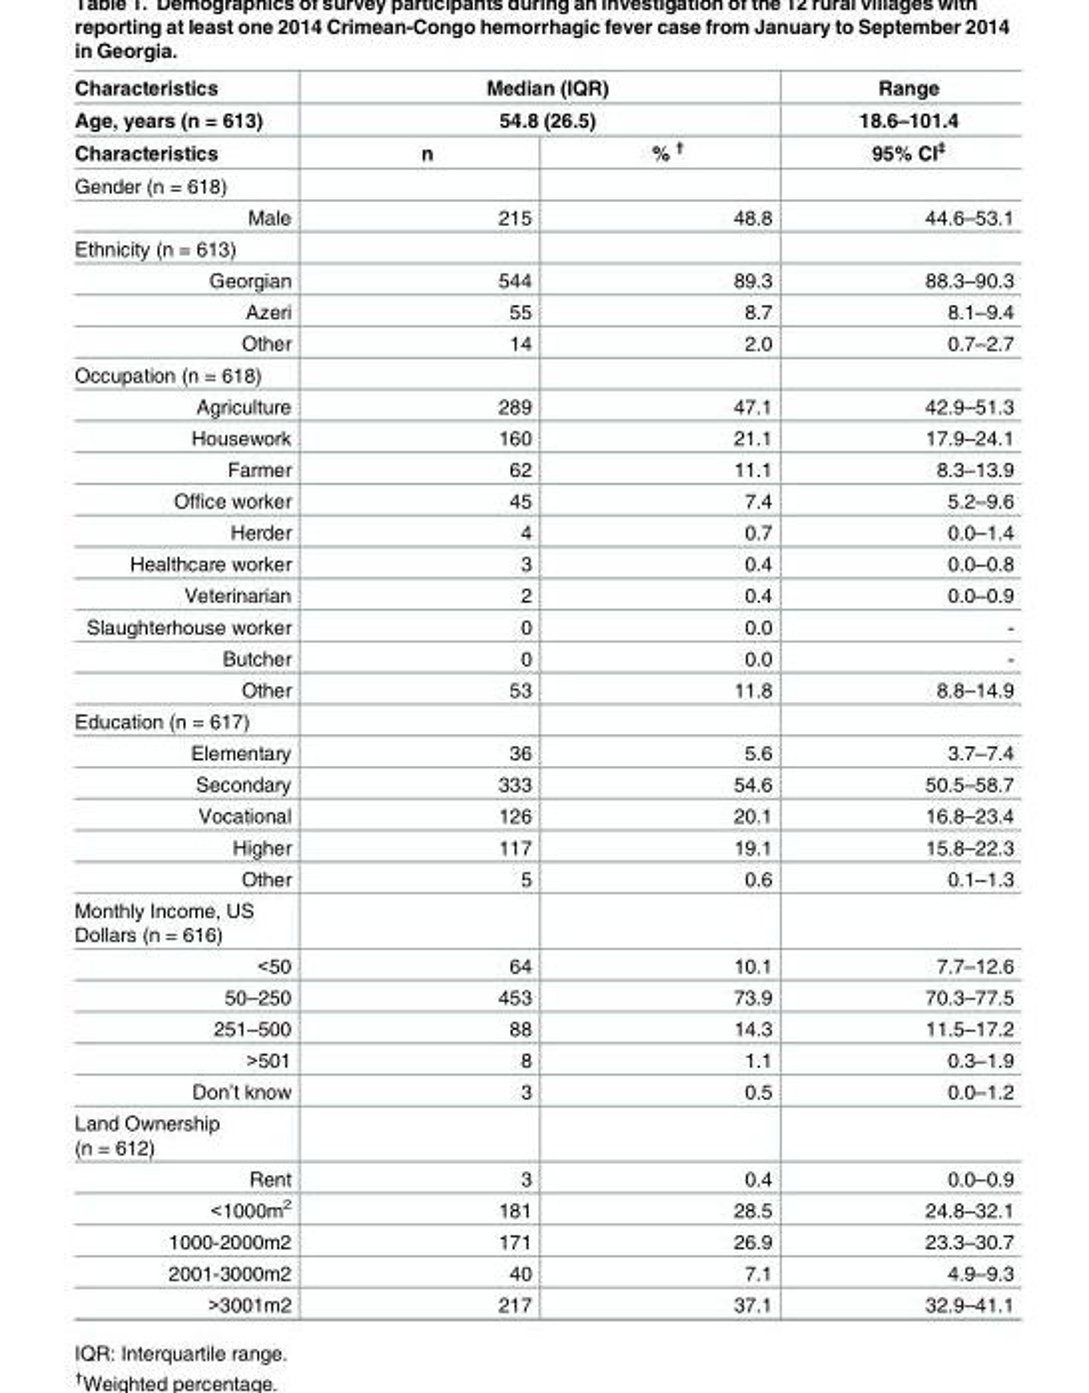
<table><thead><tr><td rowspan="3">Characteristics Age, years (n = 613) Characteristics</td><td rowspan="2" colspan="2">Median (IQR) 54.8 (26.5)</td><td rowspan="3">Range 18.6–101.4 95% CI‡</td></tr><tr></tr><tr><td>n</td><td>% <sup>†</sup></td></tr></thead><tbody><tr><td colspan="4">Gender (n = 618)</td></tr><tr><td>Male</td><td>215</td><td>48.8</td><td>44.6–53.1</td></tr><tr><td colspan="4">Ethnicity (n = 613)</td></tr><tr><td>Georgian</td><td>544</td><td>89.3</td><td>88.3–90.3</td></tr><tr><td>Azeri</td><td>55</td><td>8.7</td><td>8.1–9.4</td></tr><tr><td>Other</td><td>14</td><td>2.0</td><td>0.7–2.7</td></tr><tr><td colspan="4">Occupation (n = 618)</td></tr><tr><td>Agriculture</td><td>289</td><td>47.1</td><td>42.9–51.3</td></tr><tr><td>Housework</td><td>160</td><td>21.1</td><td>17.9–24.1</td></tr><tr><td>Farmer</td><td>62</td><td>11.1</td><td>8.3–13.9</td></tr><tr><td>Office worker</td><td>45</td><td>7.4</td><td>5.2–9.6</td></tr><tr><td>Herder</td><td>4</td><td>0.7</td><td>0.0–1.4</td></tr><tr><td>Healthcare worker</td><td>3</td><td>0.4</td><td>0.0–0.8</td></tr><tr><td>Veterinarian</td><td>2</td><td>0.4</td><td>0.0–0.9</td></tr><tr><td>Slaughterhouse worker</td><td>0</td><td>0.0</td><td>-</td></tr><tr><td>Butcher</td><td>0</td><td>0.0</td><td>-</td></tr><tr><td>Other</td><td>53</td><td>11.8</td><td>8.8–14.9</td></tr><tr><td colspan="4">Education (n = 617)</td></tr><tr><td>Elementary</td><td>36</td><td>5.6</td><td>3.7–7.4</td></tr><tr><td>Secondary</td><td>333</td><td>54.6</td><td>50.5–58.7</td></tr><tr><td>Vocational</td><td>126</td><td>20.1</td><td>16.8–23.4</td></tr><tr><td>Higher</td><td>117</td><td>19.1</td><td>15.8–22.3</td></tr><tr><td>Other</td><td>5</td><td>0.6</td><td>0.1–1.3</td></tr><tr><td colspan="4">Monthly Income, US Dollars (n = 616)</td></tr><tr><td>&lt;50</td><td>64</td><td>10.1</td><td>7.7–12.6</td></tr><tr><td>50–250</td><td>453</td><td>73.9</td><td>70.3–77.5</td></tr><tr><td>251–500</td><td>88</td><td>14.3</td><td>11.5–17.2</td></tr><tr><td>&gt;501</td><td>8</td><td>1.1</td><td>0.3–1.9</td></tr><tr><td>Don’t know</td><td>3</td><td>0.5</td><td>0.0–1.2</td></tr><tr><td colspan="4">Land Ownership (n = 612)</td></tr><tr><td>Rent</td><td>3</td><td>0.4</td><td>0.0–0.9</td></tr><tr><td>&lt;1000m<sup>2</sup></td><td>181</td><td>28.5</td><td>24.8–32.1</td></tr><tr><td>1000-2000m2</td><td>171</td><td>26.9</td><td>23.3–30.7</td></tr><tr><td>2001-3000m2</td><td>40</td><td>7.1</td><td>4.9–9.3</td></tr><tr><td>&gt;3001m2</td><td>217</td><td>37.1</td><td>32.9–41.1</td></tr></tbody></table>